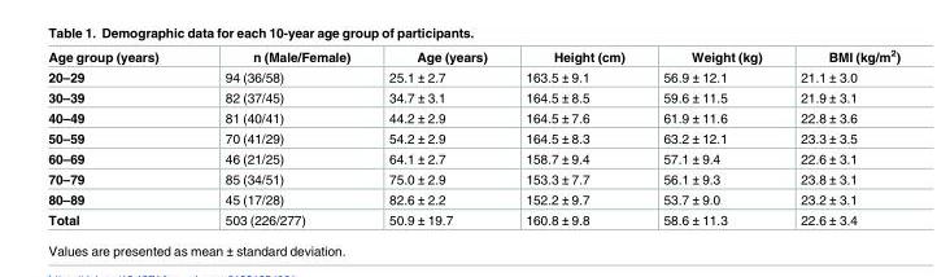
<table><thead><tr><td>Age group (years)</td><td>n (Male/Female)</td><td>Age (years)</td><td>Height (cm)</td><td>Weight (kg)</td><td>BMI (kg/m<sup>2</sup>)</td></tr></thead><tbody><tr><td>20–29</td><td>94 (36/58)</td><td>25.1 ± 2.7</td><td>163.5 ± 9.1</td><td>56.9 ± 12.1</td><td>21.1 ± 3.0</td></tr><tr><td>30–39</td><td>82 (37/45)</td><td>34.7 ± 3.1</td><td>164.5 ± 8.5</td><td>59.6 ± 11.5</td><td>21.9 ± 3.1</td></tr><tr><td>40–49</td><td>81 (40/41)</td><td>44.2 ± 2.9</td><td>164.5 ± 7.6</td><td>61.9 ± 11.6</td><td>22.8 ± 3.6</td></tr><tr><td>50–59</td><td>70 (41/29)</td><td>54.2 ± 2.9</td><td>164.5 ± 8.3</td><td>63.2 ± 12.1</td><td>23.3 ± 3.5</td></tr><tr><td>60–69</td><td>46 (21/25)</td><td>64.1 ± 2.7</td><td>158.7 ± 9.4</td><td>57.1 ± 9.4</td><td>22.6 ± 3.1</td></tr><tr><td>70–79</td><td>85 (34/51)</td><td>75.0 ± 2.9</td><td>153.3 ± 7.7</td><td>56.1 ± 9.3</td><td>23.8 ± 3.1</td></tr><tr><td>80–89</td><td>45 (17/28)</td><td>82.6 ± 2.2</td><td>152.2 ± 9.7</td><td>53.7 ± 9.0</td><td>23.2 ± 3.1</td></tr><tr><td>Total</td><td>503 (226/277)</td><td>50.9 ± 19.7</td><td>160.8 ± 9.8</td><td>58.6 ± 11.3</td><td>22.6 ± 3.4</td></tr></tbody></table>